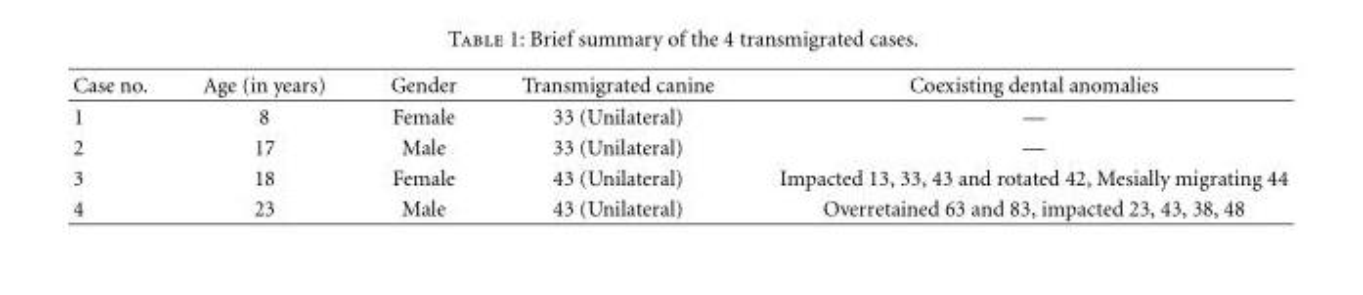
<table><thead><tr><td>Case no.</td><td>Age (in years)</td><td>Gender</td><td>Transmigrated canine</td><td>Coexisting dental anomalies</td></tr></thead><tbody><tr><td>1</td><td>8</td><td>Female</td><td>33 (Unilateral)</td><td>—</td></tr><tr><td>2</td><td>17</td><td>Male</td><td>33 (Unilateral)</td><td>—</td></tr><tr><td>3</td><td>18</td><td>Female</td><td>43 (Unilateral)</td><td>Impacted 13, 33, 43 and rotated 42, Mesially migrating 44</td></tr><tr><td>4</td><td>23</td><td>Male</td><td>43 (Unilateral)</td><td>Overretained 63 and 83, impacted 23, 43, 38, 48</td></tr></tbody></table>